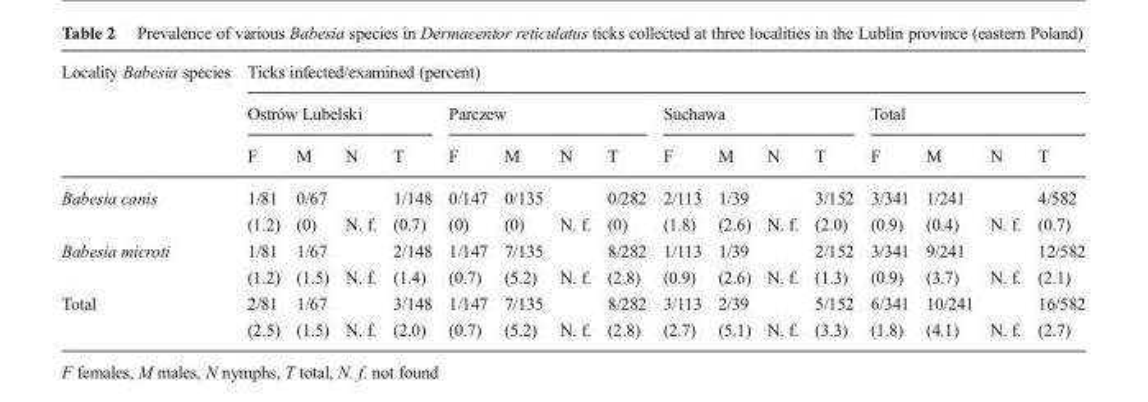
<table><thead><tr><td rowspan="3">Locality Babesia species</td><td colspan="16">Ticks infected/examined (percent)</td></tr><tr><td colspan="4">Ostrów Lubelski</td><td colspan="4">Parczew</td><td colspan="4">Suchawa</td><td colspan="4">Total</td></tr><tr><td>F</td><td>M</td><td>N</td><td>T</td><td>F</td><td>M</td><td>N</td><td>T</td><td>F</td><td>M</td><td>N</td><td>T</td><td>F</td><td>M</td><td>N</td><td>T</td></tr></thead><tbody><tr><td rowspan="2">Babesia canis</td><td>1/81</td><td>0/67</td><td></td><td>1/148</td><td>0/147</td><td>0/135</td><td></td><td>0/282</td><td>2/113</td><td>1/39</td><td></td><td>3/152</td><td>3/341</td><td>1/241</td><td></td><td>4/582</td></tr><tr><td>(1.2)</td><td>(0)</td><td>N. f.</td><td>(0.7)</td><td>(0)</td><td>(0)</td><td>N. f.</td><td>(0)</td><td>(1.8)</td><td>(2.6)</td><td>N. f.</td><td>(2.0)</td><td>(0.9)</td><td>(0.4)</td><td>N. f.</td><td>(0.7)</td></tr><tr><td rowspan="2">Babesia microti</td><td>1/81</td><td>1/67</td><td></td><td>2/148</td><td>1/147</td><td>7/135</td><td></td><td>8/282</td><td>1/113</td><td>1/39</td><td></td><td>2/152</td><td>3/341</td><td>9/241</td><td></td><td>12/582</td></tr><tr><td>(1.2)</td><td>(1.5)</td><td>N. f.</td><td>(1.4)</td><td>(0.7)</td><td>(5.2)</td><td>N. f.</td><td>(2.8)</td><td>(0.9)</td><td>(2.6)</td><td>N. f.</td><td>(1.3)</td><td>(0.9)</td><td>(3.7)</td><td>N. f.</td><td>(2.1)</td></tr><tr><td rowspan="2">Total</td><td>2/81</td><td>1/67</td><td></td><td>3/148</td><td>1/147</td><td>7/135</td><td></td><td>8/282</td><td>3/113</td><td>2/39</td><td></td><td>5/152</td><td>6/341</td><td>10/241</td><td></td><td>16/582</td></tr><tr><td>(2.5)</td><td>(1.5)</td><td>N. f.</td><td>(2.0)</td><td>(0.7)</td><td>(5.2)</td><td>N. f.</td><td>(2.8)</td><td>(2.7)</td><td>(5.1)</td><td>N. f.</td><td>(3.3)</td><td>(1.8)</td><td>(4.1)</td><td>N. f.</td><td>(2.7)</td></tr></tbody></table>